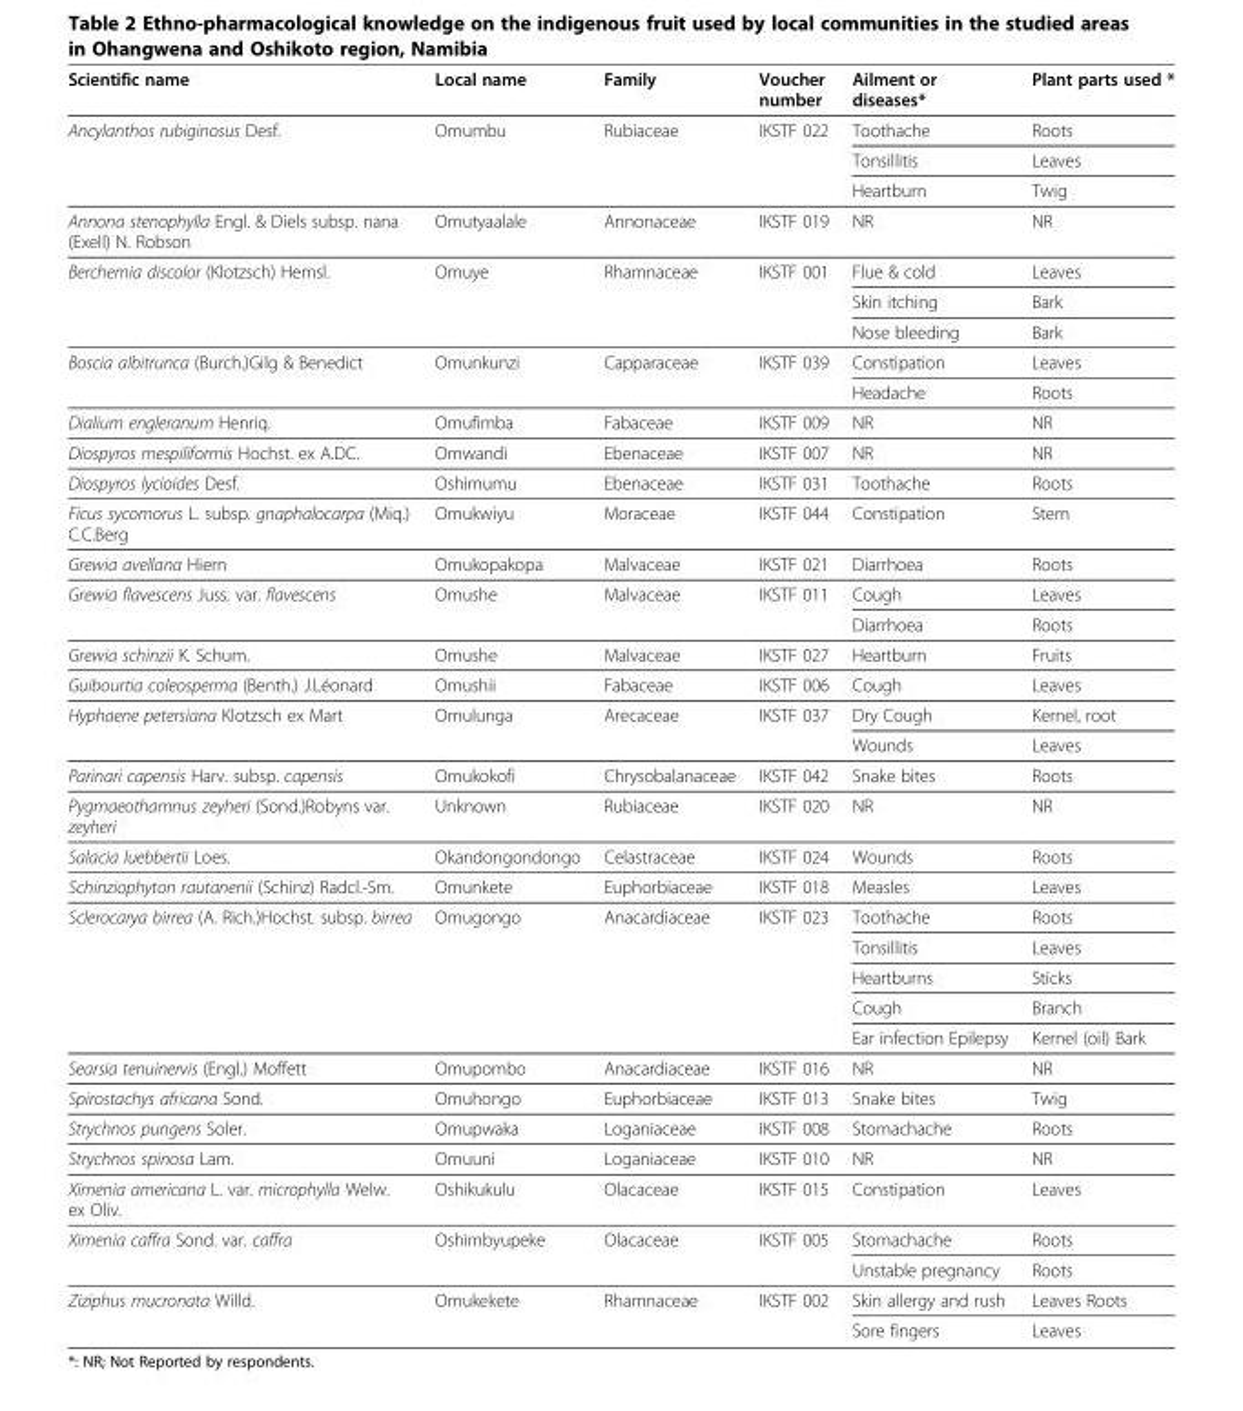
<table><thead><tr><td>Scientific name</td><td>Local name</td><td>Family</td><td>Voucher number</td><td>Ailment or diseases*</td><td>Plant parts used *</td></tr></thead><tbody><tr><td rowspan="3">Ancylanthos rubiginosus Desf.</td><td rowspan="3">Omumbu</td><td rowspan="3">Rubiaceae</td><td rowspan="3">IKSTF 022</td><td>Toothache</td><td>Roots</td></tr><tr><td>Tonsillitis</td><td>Leaves</td></tr><tr><td>Heartburn</td><td>Twig</td></tr><tr><td>Annona stenophylla Engl. &amp; Diels subsp. nana (Exell) N. Robson</td><td>Omutyaalale</td><td>Annonaceae</td><td>IKSTF 019</td><td>NR</td><td>NR</td></tr><tr><td rowspan="3">Berchemia discolor (Klotzsch) Hemsl.</td><td rowspan="3">Omuye</td><td rowspan="3">Rhamnaceae</td><td rowspan="3">IKSTF 001</td><td>Flue &amp; cold</td><td>Leaves</td></tr><tr><td>Skin itching</td><td>Bark</td></tr><tr><td>Nose bleeding</td><td>Bark</td></tr><tr><td rowspan="2">Boscia albitrunca (Burch.)Gilg &amp; Benedict</td><td rowspan="2">Omunkunzi</td><td rowspan="2">Capparaceae</td><td rowspan="2">IKSTF 039</td><td>Constipation</td><td>Leaves</td></tr><tr><td>Headache</td><td>Roots</td></tr><tr><td>Dialium engleranum Henriq.</td><td>Omufimba</td><td>Fabaceae</td><td>IKSTF 009</td><td>NR</td><td>NR</td></tr><tr><td>Diospyros mespiliformis Hochst. ex A.DC.</td><td>Omwandi</td><td>Ebenaceae</td><td>IKSTF 007</td><td>NR</td><td>NR</td></tr><tr><td>Diospyros lycioides Desf.</td><td>Oshimumu</td><td>Ebenaceae</td><td>IKSTF 031</td><td>Toothache</td><td>Roots</td></tr><tr><td>Ficus sycomorus L. subsp. gnaphalocarpa (Miq.) C.C.Berg</td><td>Omukwiyu</td><td>Moraceae</td><td>IKSTF 044</td><td>Constipation</td><td>Stem</td></tr><tr><td>Grewia avellana Hiern</td><td>Omukopakopa</td><td>Malvaceae</td><td>IKSTF 021</td><td>Diarrhoea</td><td>Roots</td></tr><tr><td rowspan="2">Grewia flavescens Juss. var. flavescens</td><td rowspan="2">Omushe</td><td rowspan="2">Malvaceae</td><td rowspan="2">IKSTF 011</td><td>Cough</td><td>Leaves</td></tr><tr><td>Diarrhoea</td><td>Roots</td></tr><tr><td>Grewia schinzii K. Schum.</td><td>Omushe</td><td>Malvaceae</td><td>IKSTF 027</td><td>Heartburn</td><td>Fruits</td></tr><tr><td>Guibourtia coleosperma (Benth.) J.Léonard</td><td>Omushii</td><td>Fabaceae</td><td>IKSTF 006</td><td>Cough</td><td>Leaves</td></tr><tr><td rowspan="2">Hyphaene petersiana Klotzsch ex Mart</td><td rowspan="2">Omulunga</td><td rowspan="2">Arecaceae</td><td rowspan="2">IKSTF 037</td><td>Dry Cough</td><td>Kernel, root</td></tr><tr><td>Wounds</td><td>Leaves</td></tr><tr><td>Parinari capensis Harv. subsp. capensis</td><td>Omukokofi</td><td>Chrysobalanaceae</td><td>IKSTF 042</td><td>Snake bites</td><td>Roots</td></tr><tr><td>Pygmaeothamnus zeyheri (Sond.)Robyns var. zeyheri</td><td>Unknown</td><td>Rubiaceae</td><td>IKSTF 020</td><td>NR</td><td>NR</td></tr><tr><td>Salacia luebbertii Loes.</td><td>Okandongondongo</td><td>Celastraceae</td><td>IKSTF 024</td><td>Wounds</td><td>Roots</td></tr><tr><td>Schinziophyton rautanenii (Schinz) Radcl.-Sm.</td><td>Omunkete</td><td>Euphorbiaceae</td><td>IKSTF 018</td><td>Measles</td><td>Leaves</td></tr><tr><td rowspan="5">Sclerocarya birrea (A. Rich.)Hochst. subsp. birrea</td><td rowspan="5">Omugongo</td><td rowspan="5">Anacardiaceae</td><td rowspan="5">IKSTF 023</td><td>Toothache</td><td>Roots</td></tr><tr><td>Tonsillitis</td><td>Leaves</td></tr><tr><td>Heartburns</td><td>Sticks</td></tr><tr><td>Cough</td><td>Branch</td></tr><tr><td>Ear infection Epilepsy</td><td>Kernel (oil) Bark</td></tr><tr><td>Searsia tenuinervis (Engl.) Moffett</td><td>Omupombo</td><td>Anacardiaceae</td><td>IKSTF 016</td><td>NR</td><td>NR</td></tr><tr><td>Spirostachys africana Sond.</td><td>Omuhongo</td><td>Euphorbiaceae</td><td>IKSTF 013</td><td>Snake bites</td><td>Twig</td></tr><tr><td>Strychnos pungens Soler.</td><td>Omupwaka</td><td>Loganiaceae</td><td>IKSTF 008</td><td>Stomachache</td><td>Roots</td></tr><tr><td>Strychnos spinosa Lam.</td><td>Omuuni</td><td>Loganiaceae</td><td>IKSTF 010</td><td>NR</td><td>NR</td></tr><tr><td>Ximenia americana L. var. microphylla Welw. ex Oliv.</td><td>Oshikukulu</td><td>Olacaceae</td><td>IKSTF 015</td><td>Constipation</td><td>Leaves</td></tr><tr><td rowspan="2">Ximenia caffra Sond. var. caffra</td><td rowspan="2">Oshimbyupeke</td><td rowspan="2">Olacaceae</td><td rowspan="2">IKSTF 005</td><td>Stomachache</td><td>Roots</td></tr><tr><td>Unstable pregnancy</td><td>Roots</td></tr><tr><td rowspan="2">Ziziphus mucronata Willd.</td><td rowspan="2">Omukekete</td><td rowspan="2">Rhamnaceae</td><td rowspan="2">IKSTF 002</td><td>Skin allergy and rush</td><td>Leaves Roots</td></tr><tr><td>Sore fingers</td><td>Leaves</td></tr></tbody></table>